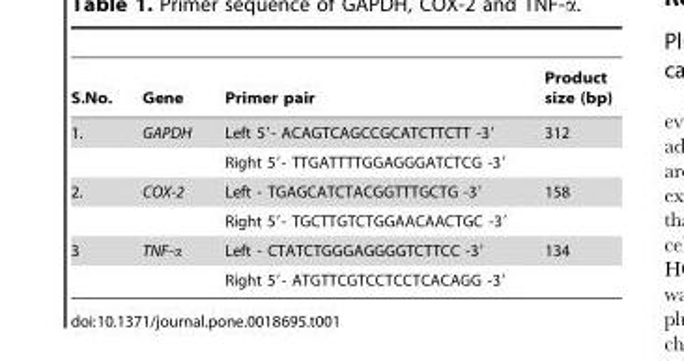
<table><thead><tr><td>S.No.</td><td>Gene</td><td>Primer pair</td><td>Product size (bp)</td></tr></thead><tbody><tr><td rowspan="2">1.</td><td>GAPDH</td><td>Left 5′- ACAGTCAGCCGCATCTTCTT -3′</td><td>312</td></tr><tr><td></td><td>Right 5′- TTGATTTTGGAGGGATCTCG -3′</td><td></td></tr><tr><td rowspan="2">2.</td><td>COX-2</td><td>Left - TGAGCATCTACGGTTTGCTG -3′</td><td>158</td></tr><tr><td></td><td>Right 5′- TGCTTGTCTGGAACAACTGC -3′</td><td></td></tr><tr><td rowspan="2">3</td><td>TNF-α</td><td>Left - CTATCTGGGAGGGGTCTTCC -3′</td><td>134</td></tr><tr><td></td><td>Right 5′- ATGTTCGTCCTCCTCACAGG -3′</td><td></td></tr></tbody></table>